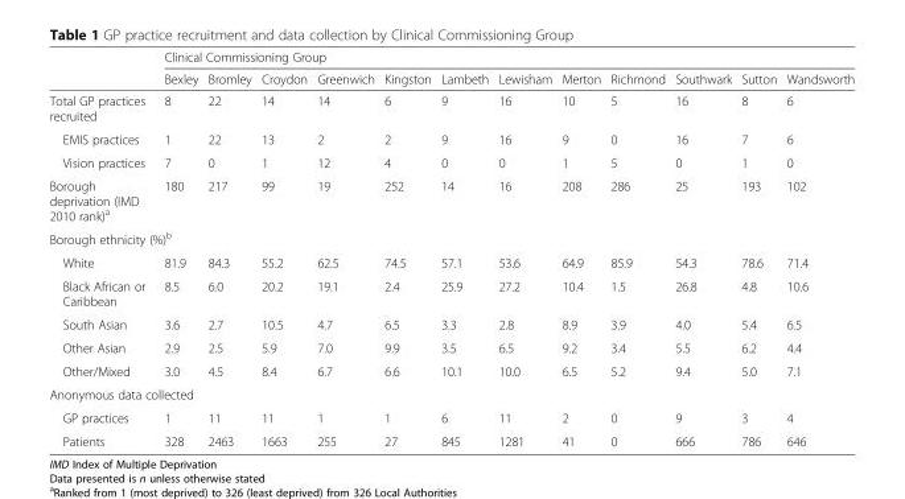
<table><thead><tr><td rowspan="2"></td><td colspan="12">Clinical Commissioning Group</td></tr><tr><td>Bexley</td><td>Bromley</td><td>Croydon</td><td>Greenwich</td><td>Kingston</td><td>Lambeth</td><td>Lewisham</td><td>Merton</td><td>Richmond</td><td>Southwark</td><td>Sutton</td><td>Wandsworth</td></tr></thead><tbody><tr><td>Total GP practices recruited</td><td>8</td><td>22</td><td>14</td><td>14</td><td>6</td><td>9</td><td>16</td><td>10</td><td>5</td><td>16</td><td>8</td><td>6</td></tr><tr><td>EMIS practices</td><td>1</td><td>22</td><td>13</td><td>2</td><td>2</td><td>9</td><td>16</td><td>9</td><td>0</td><td>16</td><td>7</td><td>6</td></tr><tr><td>Vision practices</td><td>7</td><td>0</td><td>1</td><td>12</td><td>4</td><td>0</td><td>0</td><td>1</td><td>5</td><td>0</td><td>1</td><td>0</td></tr><tr><td>Borough deprivation (IMD 2010 rank)<sup>a</sup></td><td>180</td><td>217</td><td>99</td><td>19</td><td>252</td><td>14</td><td>16</td><td>208</td><td>286</td><td>25</td><td>193</td><td>102</td></tr><tr><td colspan="13">Borough ethnicity (%)<sup>b</sup></td></tr><tr><td>White</td><td>81.9</td><td>84.3</td><td>55.2</td><td>62.5</td><td>74.5</td><td>57.1</td><td>53.6</td><td>64.9</td><td>85.9</td><td>54.3</td><td>78.6</td><td>71.4</td></tr><tr><td>Black African or Caribbean</td><td>8.5</td><td>6.0</td><td>20.2</td><td>19.1</td><td>2.4</td><td>25.9</td><td>27.2</td><td>10.4</td><td>1.5</td><td>26.8</td><td>4.8</td><td>10.6</td></tr><tr><td>South Asian</td><td>3.6</td><td>2.7</td><td>10.5</td><td>4.7</td><td>6.5</td><td>3.3</td><td>2.8</td><td>8.9</td><td>3.9</td><td>4.0</td><td>5.4</td><td>6.5</td></tr><tr><td>Other Asian</td><td>2.9</td><td>2.5</td><td>5.9</td><td>7.0</td><td>9.9</td><td>3.5</td><td>6.5</td><td>9.2</td><td>3.4</td><td>5.5</td><td>6.2</td><td>4.4</td></tr><tr><td>Other/Mixed</td><td>3.0</td><td>4.5</td><td>8.4</td><td>6.7</td><td>6.6</td><td>10.1</td><td>10.0</td><td>6.5</td><td>5.2</td><td>9.4</td><td>5.0</td><td>7.1</td></tr><tr><td colspan="13">Anonymous data collected</td></tr><tr><td>GP practices</td><td>1</td><td>11</td><td>11</td><td>1</td><td>1</td><td>6</td><td>11</td><td>2</td><td>0</td><td>9</td><td>3</td><td>4</td></tr><tr><td>Patients</td><td>328</td><td>2463</td><td>1663</td><td>255</td><td>27</td><td>845</td><td>1281</td><td>41</td><td>0</td><td>666</td><td>786</td><td>646</td></tr></tbody></table>